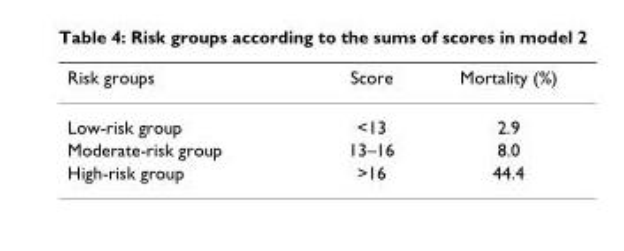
<table><thead><tr><td>Risk groups</td><td>Score</td><td>Mortality (%)</td></tr></thead><tbody><tr><td>Low-risk group</td><td>&lt;13</td><td>2.9</td></tr><tr><td>Moderate-risk group</td><td>13–16</td><td>8.0</td></tr><tr><td>High-risk group</td><td>&gt;16</td><td>44.4</td></tr></tbody></table>